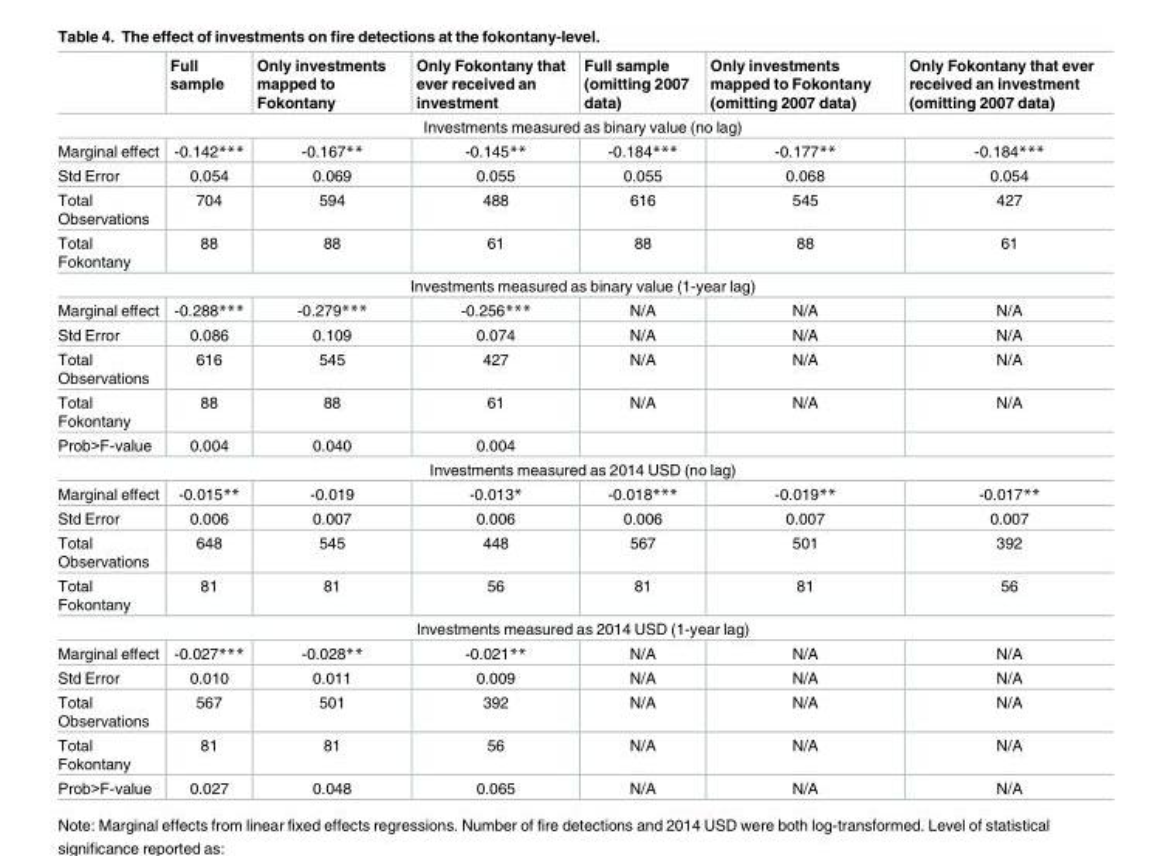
<table><thead><tr><td></td><td>Full sample</td><td>Only investments mapped to Fokontany</td><td>Only Fokontany that ever received an investment</td><td>Full sample (omitting 2007 data)</td><td>Only investments mapped to Fokontany (omitting 2007 data)</td><td>Only Fokontany that ever received an investment (omitting 2007 data)</td></tr></thead><tbody><tr><td colspan="7">Investments measured as binary value (no lag)</td></tr><tr><td>Marginal effect</td><td>-0.142***</td><td>-0.167**</td><td>-0.145**</td><td>-0.184***</td><td>-0.177**</td><td>-0.184***</td></tr><tr><td>Std Error</td><td>0.054</td><td>0.069</td><td>0.055</td><td>0.055</td><td>0.068</td><td>0.054</td></tr><tr><td>Total Observations</td><td>704</td><td>594</td><td>488</td><td>616</td><td>545</td><td>427</td></tr><tr><td>Total Fokontany</td><td>88</td><td>88</td><td>61</td><td>88</td><td>88</td><td>61</td></tr><tr><td colspan="7">Investments measured as binary value (1-year lag)</td></tr><tr><td>Marginal effect</td><td>-0.288***</td><td>-0.279***</td><td>-0.256***</td><td>N/A</td><td>N/A</td><td>N/A</td></tr><tr><td>Std Error</td><td>0.086</td><td>0.109</td><td>0.074</td><td>N/A</td><td>N/A</td><td>N/A</td></tr><tr><td>Total Observations</td><td>616</td><td>545</td><td>427</td><td>N/A</td><td>N/A</td><td>N/A</td></tr><tr><td>Total Fokontany</td><td>88</td><td>88</td><td>61</td><td>N/A</td><td>N/A</td><td>N/A</td></tr><tr><td>Prob&gt;F-value</td><td>0.004</td><td>0.040</td><td>0.004</td><td></td><td></td><td></td></tr><tr><td colspan="7">Investments measured as 2014 USD (no lag)</td></tr><tr><td>Marginal effect</td><td>-0.015**</td><td>-0.019</td><td>-0.013*</td><td>-0.018***</td><td>-0.019**</td><td>-0.017**</td></tr><tr><td>Std Error</td><td>0.006</td><td>0.007</td><td>0.006</td><td>0.006</td><td>0.007</td><td>0.007</td></tr><tr><td>Total Observations</td><td>648</td><td>545</td><td>448</td><td>567</td><td>501</td><td>392</td></tr><tr><td>Total Fokontany</td><td>81</td><td>81</td><td>56</td><td>81</td><td>81</td><td>56</td></tr><tr><td colspan="7">Investments measured as 2014 USD (1-year lag)</td></tr><tr><td>Marginal effect</td><td>-0.027***</td><td>-0.028**</td><td>-0.021**</td><td>N/A</td><td>N/A</td><td>N/A</td></tr><tr><td>Std Error</td><td>0.010</td><td>0.011</td><td>0.009</td><td>N/A</td><td>N/A</td><td>N/A</td></tr><tr><td>Total Observations</td><td>567</td><td>501</td><td>392</td><td>N/A</td><td>N/A</td><td>N/A</td></tr><tr><td>Total Fokontany</td><td>81</td><td>81</td><td>56</td><td>N/A</td><td>N/A</td><td>N/A</td></tr><tr><td>Prob&gt;F-value</td><td>0.027</td><td>0.048</td><td>0.065</td><td>N/A</td><td>N/A</td><td>N/A</td></tr></tbody></table>